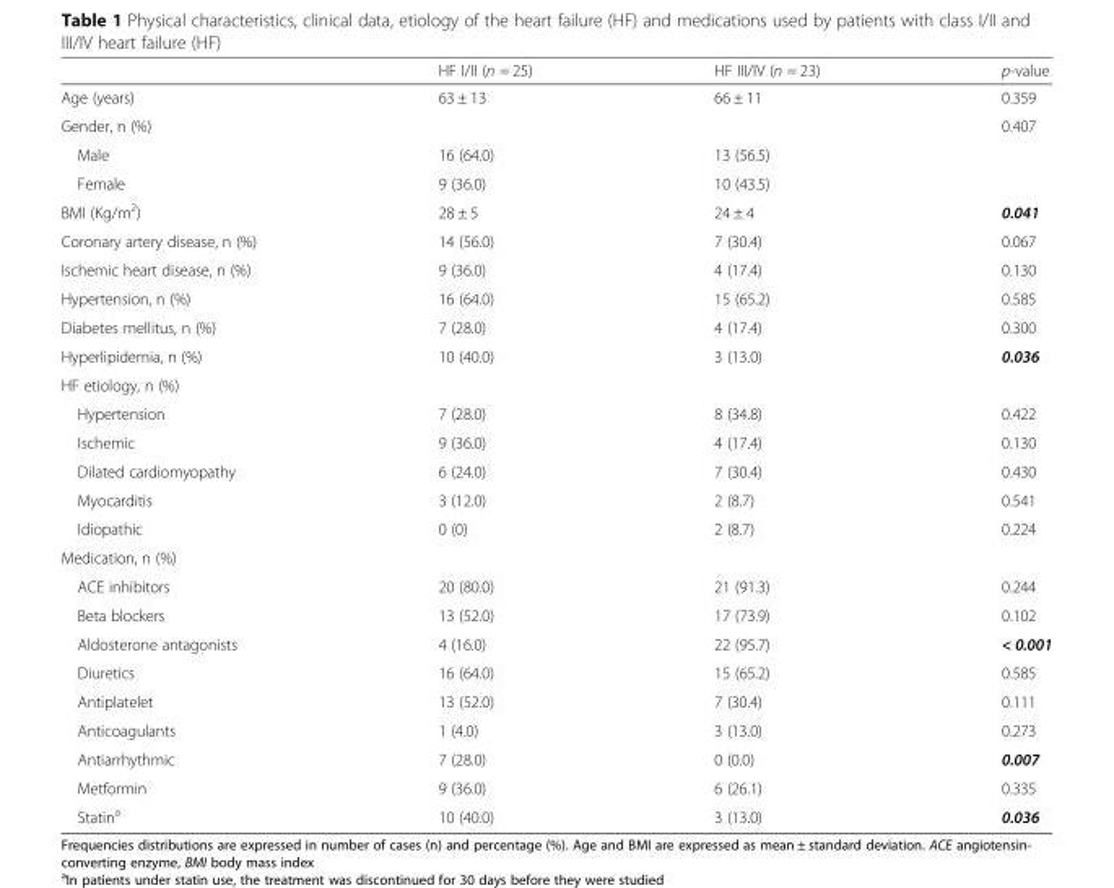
<table><thead><tr><td></td><td>HF I/II (n = 25)</td><td>HF III/IV (n = 23)</td><td>p-value</td></tr></thead><tbody><tr><td>Age (years)</td><td>63 ± 13</td><td>66 ± 11</td><td>0.359</td></tr><tr><td colspan="3">Gender, n (%)</td><td>0.407</td></tr><tr><td>Male</td><td>16 (64.0)</td><td>13 (56.5)</td><td></td></tr><tr><td>Female</td><td>9 (36.0)</td><td>10 (43.5)</td><td></td></tr><tr><td>BMI (Kg/m<sup>2</sup>)</td><td>28 ± 5</td><td>24 ± 4</td><td>0.041</td></tr><tr><td>Coronary artery disease, n (%)</td><td>14 (56.0)</td><td>7 (30.4)</td><td>0.067</td></tr><tr><td>Ischemic heart disease, n (%)</td><td>9 (36.0)</td><td>4 (17.4)</td><td>0.130</td></tr><tr><td>Hypertension, n (%)</td><td>16 (64.0)</td><td>15 (65.2)</td><td>0.585</td></tr><tr><td>Diabetes mellitus, n (%)</td><td>7 (28.0)</td><td>4 (17.4)</td><td>0.300</td></tr><tr><td>Hyperlipidemia, n (%)</td><td>10 (40.0)</td><td>3 (13.0)</td><td>0.036</td></tr><tr><td colspan="4">HF etiology, n (%)</td></tr><tr><td>Hypertension</td><td>7 (28.0)</td><td>8 (34.8)</td><td>0.422</td></tr><tr><td>Ischemic</td><td>9 (36.0)</td><td>4 (17.4)</td><td>0.130</td></tr><tr><td>Dilated cardiomyopathy</td><td>6 (24.0)</td><td>7 (30.4)</td><td>0.430</td></tr><tr><td>Myocarditis</td><td>3 (12.0)</td><td>2 (8.7)</td><td>0.541</td></tr><tr><td>Idiopathic</td><td>0 (0)</td><td>2 (8.7)</td><td>0.224</td></tr><tr><td colspan="4">Medication, n (%)</td></tr><tr><td>ACE inhibitors</td><td>20 (80.0)</td><td>21 (91.3)</td><td>0.244</td></tr><tr><td>Beta blockers</td><td>13 (52.0)</td><td>17 (73.9)</td><td>0.102</td></tr><tr><td>Aldosterone antagonists</td><td>4 (16.0)</td><td>22 (95.7)</td><td>&lt; 0.001</td></tr><tr><td>Diuretics</td><td>16 (64.0)</td><td>15 (65.2)</td><td>0.585</td></tr><tr><td>Antiplatelet</td><td>13 (52.0)</td><td>7 (30.4)</td><td>0.111</td></tr><tr><td>Anticoagulants</td><td>1 (4.0)</td><td>3 (13.0)</td><td>0.273</td></tr><tr><td>Antiarrhythmic</td><td>7 (28.0)</td><td>0 (0.0)</td><td>0.007</td></tr><tr><td>Metformin</td><td>9 (36.0)</td><td>6 (26.1)</td><td>0.335</td></tr><tr><td>Statin<sup>a</sup></td><td>10 (40.0)</td><td>3 (13.0)</td><td>0.036</td></tr></tbody></table>